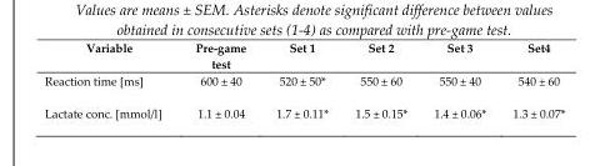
<table><thead><tr><td>Variable</td><td>Pre-game test</td><td>Set 1</td><td>Set 2</td><td>Set 3</td><td>Set4</td></tr></thead><tbody><tr><td>Reaction time [ms]</td><td>600 ± 40</td><td>520 ± 50*</td><td>550 ± 60</td><td>550 ± 40</td><td>540 ± 60</td></tr><tr><td>Lactate conc. [mmol/l]</td><td>1.1 ± 0.04</td><td>1.7 ± 0.11*</td><td>1.5 ± 0.15*</td><td>1.4 ± 0.06*</td><td>1.3 ± 0.07*</td></tr></tbody></table>